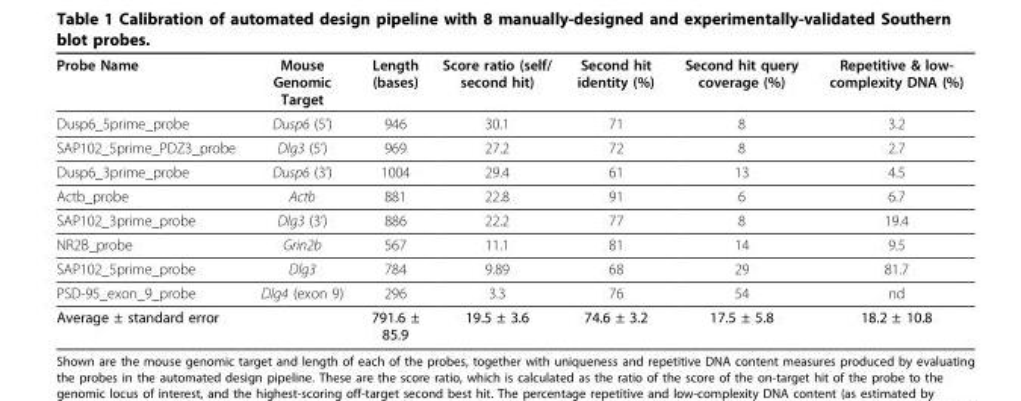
<table><thead><tr><td>Probe Name</td><td>Mouse Genomic Target</td><td>Length (bases)</td><td>Score ratio (self/ second hit)</td><td>Second hit identity (%)</td><td>Second hit query coverage (%)</td><td>Repetitive &amp; low- complexity DNA (%)</td></tr></thead><tbody><tr><td>Dusp6_5prime_probe</td><td>Dusp6 (5’)</td><td>946</td><td>30.1</td><td>71</td><td>8</td><td>3.2</td></tr><tr><td>SAP102_5prime_PDZ3_probe</td><td>Dlg3 (5’)</td><td>969</td><td>27.2</td><td>72</td><td>8</td><td>2.7</td></tr><tr><td>Dusp6_3prime_probe</td><td>Dusp6 (3’)</td><td>1004</td><td>29.4</td><td>61</td><td>13</td><td>4.5</td></tr><tr><td>Actb_probe</td><td>Actb</td><td>881</td><td>22.8</td><td>91</td><td>6</td><td>6.7</td></tr><tr><td>SAP102_3prime_probe</td><td>Dlg3 (3’)</td><td>886</td><td>22.2</td><td>77</td><td>8</td><td>19.4</td></tr><tr><td>NR2B_probe</td><td>Grin2b</td><td>567</td><td>11.1</td><td>81</td><td>14</td><td>9.5</td></tr><tr><td>SAP102_5prime_probe</td><td>Dlg3</td><td>784</td><td>9.89</td><td>68</td><td>29</td><td>81.7</td></tr><tr><td>PSD-95_exon_9_probe</td><td>Dlg4 (exon 9)</td><td>296</td><td>3.3</td><td>76</td><td>54</td><td>nd</td></tr><tr><td>Average ± standard error</td><td></td><td>791.6 ± 85.9</td><td>19.5 ± 3.6</td><td>74.6 ± 3.2</td><td>17.5 ± 5.8</td><td>18.2 ± 10.8</td></tr></tbody></table>